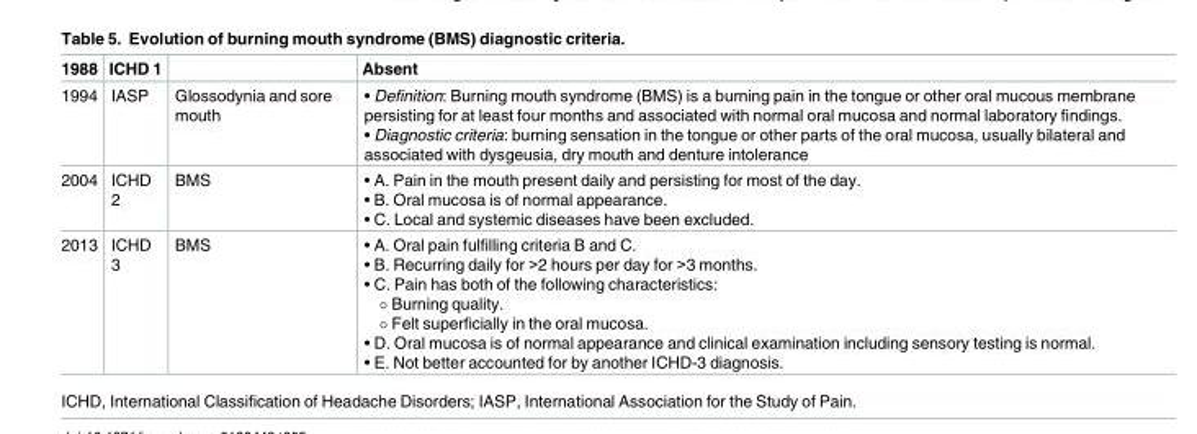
<table><thead><tr><td>1988</td><td>ICHD 1</td><td></td><td>Absent</td></tr></thead><tbody><tr><td>1994</td><td>IASP</td><td>Glossodynia and sore mouth</td><td>• Definition: Burning mouth syndrome (BMS) is a burning pain in the tongue or other oral mucous membrane persisting for at least four months and associated with normal oral mucosa and normal laboratory findings. • Diagnostic criteria: burning sensation in the tongue or other parts of the oral mucosa, usually bilateral and associated with dysgeusia, dry mouth and denture intolerance</td></tr><tr><td>2004</td><td>ICHD 2</td><td>BMS</td><td>• A. Pain in the mouth present daily and persisting for most of the day. • B. Oral mucosa is of normal appearance. • C. Local and systemic diseases have been excluded.</td></tr><tr><td>2013</td><td>ICHD 3</td><td>BMS</td><td>• A. Oral pain fulfilling criteria B and C. • B. Recurring daily for &gt;2 hours per day for &gt;3 months. • C. Pain has both of the following characteristics: ○ Burning quality. ○ Felt superficially in the oral mucosa. • D. Oral mucosa is of normal appearance and clinical examination including sensory testing is normal. • E. Not better accounted for by another ICHD-3 diagnosis.</td></tr></tbody></table>